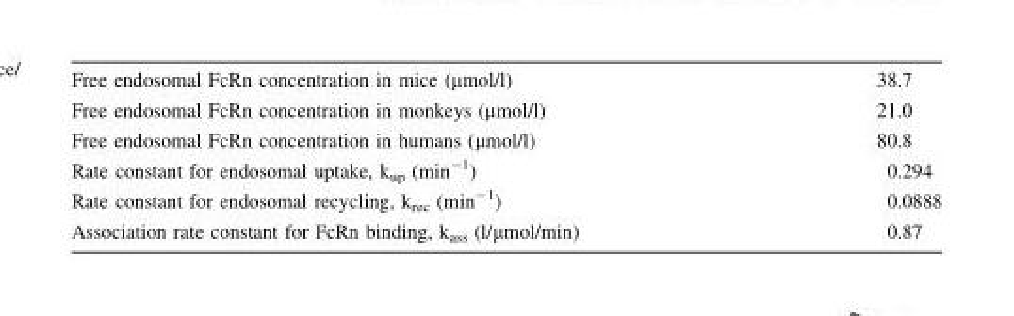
<table><tbody><tr><td>Free endosomal FcRn concentration in mice (µmol/l)</td><td>38.7</td></tr><tr><td>Free endosomal FcRn concentration in monkeys (µmol/l)</td><td>21.0</td></tr><tr><td>Free endosomal FcRn concentration in humans (µmol/l)</td><td>80.8</td></tr><tr><td>Rate constant for endosomal uptake, k<sub>up</sub> (min<sup>-1</sup>)</td><td>0.294</td></tr><tr><td>Rate constant for endosomal recycling, k<sub>rec</sub> (min<sup>-1</sup>)</td><td>0.0888</td></tr><tr><td>Association rate constant for FcRn binding, k<sub>ass</sub> (l/µmol/min)</td><td>0.87</td></tr></tbody></table>